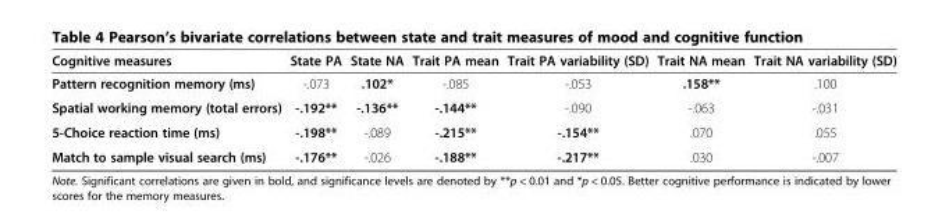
<table><thead><tr><td>Cognitive measures</td><td>State PA</td><td>State NA</td><td>Trait PA mean</td><td>Trait PA variability (SD)</td><td>Trait NA mean</td><td>Trait NA variability (SD)</td></tr></thead><tbody><tr><td>Pattern recognition memory (ms)</td><td>-.073</td><td>.102*</td><td>-.085</td><td>-.053</td><td>.158**</td><td>.100</td></tr><tr><td>Spatial working memory (total errors)</td><td>-.192**</td><td>-.136**</td><td>-.144**</td><td>-.090</td><td>-.063</td><td>-.031</td></tr><tr><td>5-Choice reaction time (ms)</td><td>-.198**</td><td>-.089</td><td>-.215**</td><td>-.154**</td><td>.070</td><td>.055</td></tr><tr><td>Match to sample visual search (ms)</td><td>-.176**</td><td>-.026</td><td>-.188**</td><td>-.217**</td><td>.030</td><td>-.007</td></tr></tbody></table>